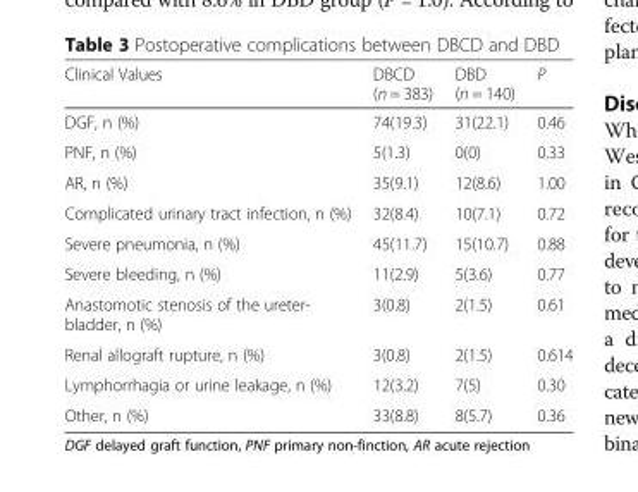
<table><thead><tr><td>Clinical Values</td><td>DBCD (n = 383)</td><td>DBD (n = 140)</td><td>P</td></tr></thead><tbody><tr><td>DGF, n (%)</td><td>74(19.3)</td><td>31(22.1)</td><td>0.46</td></tr><tr><td>PNF, n (%)</td><td>5(1.3)</td><td>0(0)</td><td>0.33</td></tr><tr><td>AR, n (%)</td><td>35(9.1)</td><td>12(8.6)</td><td>1.00</td></tr><tr><td>Complicated urinary tract infection, n (%)</td><td>32(8.4)</td><td>10(7.1)</td><td>0.72</td></tr><tr><td>Severe pneumonia, n (%)</td><td>45(11.7)</td><td>15(10.7)</td><td>0.88</td></tr><tr><td>Severe bleeding, n (%)</td><td>11(2.9)</td><td>5(3.6)</td><td>0.77</td></tr><tr><td>Anastomotic stenosis of the ureter- bladder, n (%)</td><td>3(0.8)</td><td>2(1.5)</td><td>0.61</td></tr><tr><td>Renal allograft rupture, n (%)</td><td>3(0.8)</td><td>2(1.5)</td><td>0.614</td></tr><tr><td>Lymphorrhagia or urine leakage, n (%)</td><td>12(3.2)</td><td>7(5)</td><td>0.30</td></tr><tr><td>Other, n (%)</td><td>33(8.8)</td><td>8(5.7)</td><td>0.36</td></tr></tbody></table>